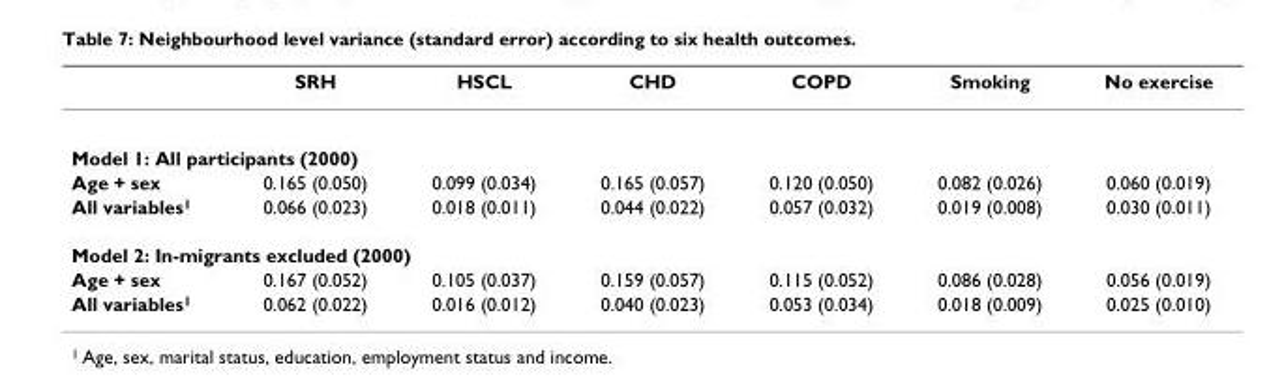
<table><thead><tr><td></td><td>SRH</td><td>HSCL</td><td>CHD</td><td>COPD</td><td>Smoking</td><td>No exercise</td></tr></thead><tbody><tr><td colspan="7">Model 1: All participants (2000)</td></tr><tr><td>Age + sex</td><td>0.165 (0.050)</td><td>0.099 (0.034)</td><td>0.165 (0.057)</td><td>0.120 (0.050)</td><td>0.082 (0.026)</td><td>0.060 (0.019)</td></tr><tr><td>All variables<sup>1</sup></td><td>0.066 (0.023)</td><td>0.018 (0.011)</td><td>0.044 (0.022)</td><td>0.057 (0.032)</td><td>0.019 (0.008)</td><td>0.030 (0.011)</td></tr><tr><td colspan="7">Model 2: In-migrants excluded (2000)</td></tr><tr><td>Age + sex</td><td>0.167 (0.052)</td><td>0.105 (0.037)</td><td>0.159 (0.057)</td><td>0.115 (0.052)</td><td>0.086 (0.028)</td><td>0.056 (0.019)</td></tr><tr><td>All variables<sup>1</sup></td><td>0.062 (0.022)</td><td>0.016 (0.012)</td><td>0.040 (0.023)</td><td>0.053 (0.034)</td><td>0.018 (0.009)</td><td>0.025 (0.010)</td></tr></tbody></table>